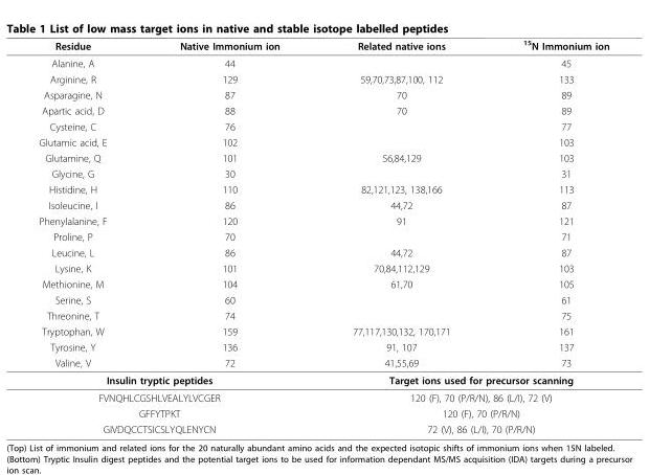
<table><thead><tr><td>Residue</td><td>Native Immonium ion</td><td>Related native ions</td><td><sup>15</sup>N Immonium ion</td></tr></thead><tbody><tr><td>Alanine, A</td><td>44</td><td></td><td>45</td></tr><tr><td>Arginine, R</td><td>129</td><td>59,70,73,87,100, 112</td><td>133</td></tr><tr><td>Asparagine, N</td><td>87</td><td>70</td><td>89</td></tr><tr><td>Apartic acid, D</td><td>88</td><td>70</td><td>89</td></tr><tr><td>Cysteine, C</td><td>76</td><td></td><td>77</td></tr><tr><td>Glutamic acid, E</td><td>102</td><td></td><td>103</td></tr><tr><td>Glutamine, Q</td><td>101</td><td>56,84,129</td><td>103</td></tr><tr><td>Glycine, G</td><td>30</td><td></td><td>31</td></tr><tr><td>Histidine, H</td><td>110</td><td>82,121,123, 138,166</td><td>113</td></tr><tr><td>Isoleucine, I</td><td>86</td><td>44,72</td><td>87</td></tr><tr><td>Phenylalanine, F</td><td>120</td><td>91</td><td>121</td></tr><tr><td>Proline, P</td><td>70</td><td></td><td>71</td></tr><tr><td>Leucine, L</td><td>86</td><td>44,72</td><td>87</td></tr><tr><td>Lysine, K</td><td>101</td><td>70,84,112,129</td><td>103</td></tr><tr><td>Methionine, M</td><td>104</td><td>61,70</td><td>105</td></tr><tr><td>Serine, S</td><td>60</td><td></td><td>61</td></tr><tr><td>Threonine, T</td><td>74</td><td></td><td>75</td></tr><tr><td>Tryptophan, W</td><td>159</td><td>77,117,130,132, 170,171</td><td>161</td></tr><tr><td>Tyrosine, Y</td><td>136</td><td>91, 107</td><td>137</td></tr><tr><td>Valine, V</td><td>72</td><td>41,55,69</td><td>73</td></tr><tr><td colspan="2">Insulin tryptic peptides</td><td colspan="2">Target ions used for precursor scanning</td></tr><tr><td colspan="2">FVNQHLCGSHLVEALYLVCGER</td><td colspan="2">120 (F), 70 (P/R/N), 86 (L/I), 72 (V)</td></tr><tr><td colspan="2">GFFYTPKT</td><td colspan="2">120 (F), 70 (P/R/N)</td></tr><tr><td colspan="2">GIVDQCCTSICSLYQLENYCN</td><td colspan="2">72 (V), 86 (L/I), 70 (P/R/N)</td></tr></tbody></table>